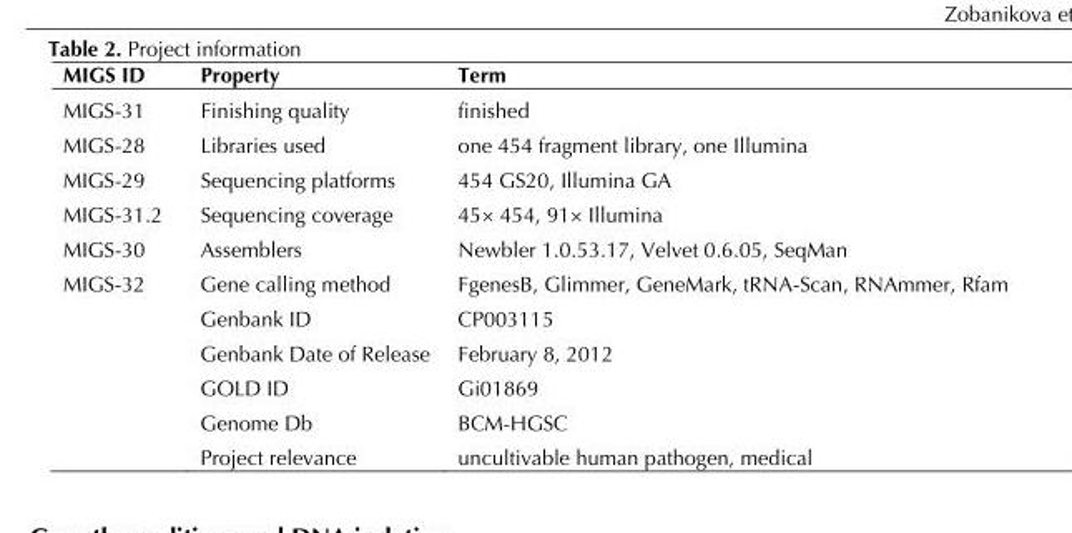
<table><thead><tr><td>MIGS ID</td><td>Property</td><td>Term</td></tr></thead><tbody><tr><td>MIGS-31</td><td>Finishing quality</td><td>finished</td></tr><tr><td>MIGS-28</td><td>Libraries used</td><td>one 454 fragment library, one Illumina</td></tr><tr><td>MIGS-29</td><td>Sequencing platforms</td><td>454 GS20, Illumina GA</td></tr><tr><td>MIGS-31.2</td><td>Sequencing coverage</td><td>45× 454, 91× Illumina</td></tr><tr><td>MIGS-30</td><td>Assemblers</td><td>Newbler 1.0.53.17, Velvet 0.6.05, SeqMan</td></tr><tr><td rowspan="6">MIGS-32</td><td>Gene calling method</td><td>FgenesB, Glimmer, GeneMark, tRNA-Scan, RNAmmer, Rfam</td></tr><tr><td>Genbank ID</td><td>CP003115</td></tr><tr><td>Genbank Date of Release</td><td>February 8, 2012</td></tr><tr><td>GOLD ID</td><td>Gi01869</td></tr><tr><td>Genome Db</td><td>BCM-HGSC</td></tr><tr><td>Project relevance</td><td>uncultivable human pathogen, medical</td></tr></tbody></table>